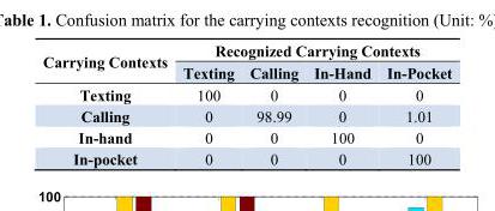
<table><thead><tr><td rowspan="2">Carrying Contexts</td><td colspan="4">Recognized Carrying Contexts</td></tr><tr><td>Texting</td><td>Calling</td><td>In-Hand</td><td>In-Pocket</td></tr></thead><tbody><tr><td>Texting</td><td>100</td><td>0</td><td>0</td><td>0</td></tr><tr><td>Calling</td><td>0</td><td>98.99</td><td>0</td><td>1.01</td></tr><tr><td>In-hand</td><td>0</td><td>0</td><td>100</td><td>0</td></tr><tr><td>In-pocket</td><td>0</td><td>0</td><td>0</td><td>100</td></tr></tbody></table>